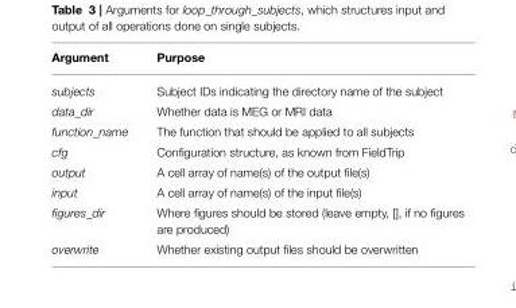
<table><thead><tr><td>Argument</td><td>Purpose</td></tr></thead><tbody><tr><td>subjects</td><td>Subject IDs indicating the directory name of the subject</td></tr><tr><td>data_dir</td><td>Whether data is MEG or MRI data</td></tr><tr><td>function_name</td><td>The function that should be applied to all subjects</td></tr><tr><td>cfg</td><td>Configuration structure, as known from FieldTrip</td></tr><tr><td>output</td><td>A cell array of name(s) of the output file(s)</td></tr><tr><td>input</td><td>A cell array of name(s) of the input file(s)</td></tr><tr><td>figures_dir</td><td>Where figures should be stored (leave empty, [], if no figures are produced)</td></tr><tr><td>overwrite</td><td>Whether existing output files should be overwritten</td></tr></tbody></table>